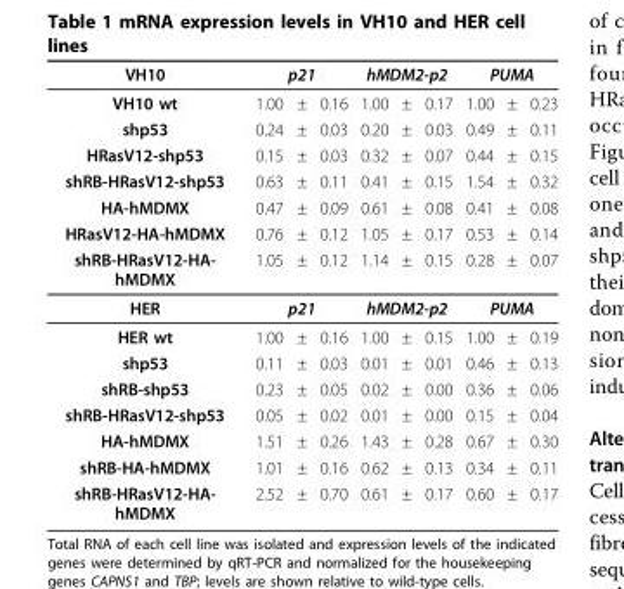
<table><thead><tr><td rowspan="2">VH10 VH10 wt</td><td colspan="3">p21</td><td colspan="3">hMDM2-p2</td><td colspan="3">PUMA</td></tr><tr><td>1.00</td><td>±</td><td>0.16</td><td>1.00</td><td>±</td><td>0.17</td><td>1.00</td><td>±</td><td>0.23</td></tr></thead><tbody><tr><td>shp53</td><td>0.24</td><td>±</td><td>0.03</td><td>0.20</td><td>±</td><td>0.03</td><td>0.49</td><td>±</td><td>0.11</td></tr><tr><td>HRasV12-shp53</td><td>0.15</td><td>±</td><td>0.03</td><td>0.32</td><td>±</td><td>0.07</td><td>0.44</td><td>±</td><td>0.15</td></tr><tr><td>shRB-HRasV12-shp53</td><td>0.63</td><td>±</td><td>0.11</td><td>0.41</td><td>±</td><td>0.15</td><td>1.54</td><td>±</td><td>0.32</td></tr><tr><td>HA-hMDMX</td><td>0.47</td><td>±</td><td>0.09</td><td>0.61</td><td>±</td><td>0.08</td><td>0.41</td><td>±</td><td>0.08</td></tr><tr><td>HRasV12-HA-hMDMX</td><td>0.76</td><td>±</td><td>0.12</td><td>1.05</td><td>±</td><td>0.17</td><td>0.53</td><td>±</td><td>0.14</td></tr><tr><td>shRB-HRasV12-HA- hMDMX</td><td>1.05</td><td>±</td><td>0.12</td><td>1.14</td><td>±</td><td>0.15</td><td>0.28</td><td>±</td><td>0.07</td></tr><tr><td>HER</td><td colspan="3">p21</td><td colspan="3">hMDM2-p2</td><td colspan="3">PUMA</td></tr><tr><td>HER wt</td><td>1.00</td><td>±</td><td>0.16</td><td>1.00</td><td>±</td><td>0.15</td><td>1.00</td><td>±</td><td>0.19</td></tr><tr><td>shp53</td><td>0.11</td><td>±</td><td>0.03</td><td>0.01</td><td>±</td><td>0.01</td><td>0.46</td><td>±</td><td>0.13</td></tr><tr><td>shRB-shp53</td><td>0.23</td><td>±</td><td>0.05</td><td>0.02</td><td>±</td><td>0.00</td><td>0.36</td><td>±</td><td>0.06</td></tr><tr><td>shRB-HRasV12-shp53</td><td>0.05</td><td>±</td><td>0.02</td><td>0.01</td><td>±</td><td>0.00</td><td>0.15</td><td>±</td><td>0.04</td></tr><tr><td>HA-hMDMX</td><td>1.51</td><td>±</td><td>0.26</td><td>1.43</td><td>±</td><td>0.28</td><td>0.67</td><td>±</td><td>0.30</td></tr><tr><td>shRB-HA-hMDMX</td><td>1.01</td><td>±</td><td>0.16</td><td>0.62</td><td>±</td><td>0.13</td><td>0.34</td><td>±</td><td>0.11</td></tr><tr><td>shRB-HRasV12-HA- hMDMX</td><td>2.52</td><td>±</td><td>0.70</td><td>0.61</td><td>±</td><td>0.17</td><td>0.60</td><td>±</td><td>0.17</td></tr></tbody></table>